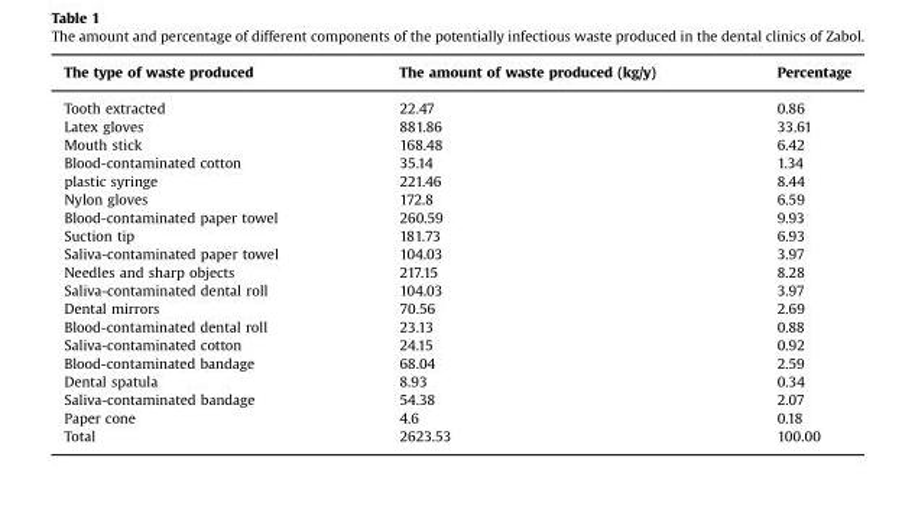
<table><thead><tr><td>The type of waste produced</td><td>The amount of waste produced (kg/y)</td><td>Percentage</td></tr></thead><tbody><tr><td>Tooth extracted</td><td>22.47</td><td>0.86</td></tr><tr><td>Latex gloves</td><td>881.86</td><td>33.61</td></tr><tr><td>Mouth stick</td><td>168.48</td><td>6.42</td></tr><tr><td>Blood-contaminated cotton</td><td>35.14</td><td>1.34</td></tr><tr><td>plastic syringe</td><td>221.46</td><td>8.44</td></tr><tr><td>Nylon gloves</td><td>172.8</td><td>6.59</td></tr><tr><td>Blood-contaminated paper towel</td><td>260.59</td><td>9.93</td></tr><tr><td>Suction tip</td><td>181.73</td><td>6.93</td></tr><tr><td>Saliva-contaminated paper towel</td><td>104.03</td><td>3.97</td></tr><tr><td>Needles and sharp objects</td><td>217.15</td><td>8.28</td></tr><tr><td>Saliva-contaminated dental roll</td><td>104.03</td><td>3.97</td></tr><tr><td>Dental mirrors</td><td>70.56</td><td>2.69</td></tr><tr><td>Blood-contaminated dental roll</td><td>23.13</td><td>0.88</td></tr><tr><td>Saliva-contaminated cotton</td><td>24.15</td><td>0.92</td></tr><tr><td>Blood-contaminated bandage</td><td>68.04</td><td>2.59</td></tr><tr><td>Dental spatula</td><td>8.93</td><td>0.34</td></tr><tr><td>Saliva-contaminated bandage</td><td>54.38</td><td>2.07</td></tr><tr><td>Paper cone</td><td>4.6</td><td>0.18</td></tr><tr><td>Total</td><td>2623.53</td><td>100.00</td></tr></tbody></table>